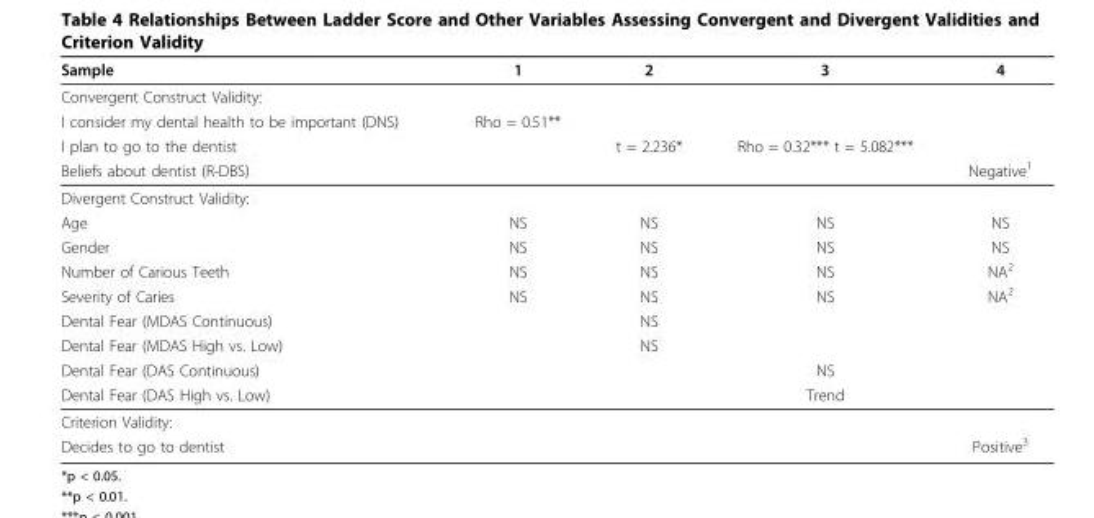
<table><thead><tr><td>Sample</td><td>1</td><td>2</td><td>3</td><td>4</td></tr></thead><tbody><tr><td colspan="5">Convergent Construct Validity:</td></tr><tr><td>I consider my dental health to be important (DNS)</td><td>Rho = 0.51**</td><td></td><td></td><td></td></tr><tr><td>I plan to go to the dentist</td><td></td><td>t = 2.236*</td><td>Rho = 0.32*** t = 5.082***</td><td></td></tr><tr><td>Beliefs about dentist (R-DBS)</td><td></td><td></td><td></td><td>Negative<sup>1</sup></td></tr><tr><td colspan="5">Divergent Construct Validity:</td></tr><tr><td>Age</td><td>NS</td><td>NS</td><td>NS</td><td>NS</td></tr><tr><td>Gender</td><td>NS</td><td>NS</td><td>NS</td><td>NS</td></tr><tr><td>Number of Carious Teeth</td><td>NS</td><td>NS</td><td>NS</td><td>NA<sup>2</sup></td></tr><tr><td>Severity of Caries</td><td>NS</td><td>NS</td><td>NS</td><td>NA<sup>2</sup></td></tr><tr><td>Dental Fear (MDAS Continuous)</td><td></td><td>NS</td><td></td><td></td></tr><tr><td>Dental Fear (MDAS High vs. Low)</td><td></td><td>NS</td><td></td><td></td></tr><tr><td>Dental Fear (DAS Continuous)</td><td></td><td></td><td>NS</td><td></td></tr><tr><td>Dental Fear (DAS High vs. Low)</td><td></td><td></td><td>Trend</td><td></td></tr><tr><td colspan="5">Criterion Validity:</td></tr><tr><td>Decides to go to dentist</td><td></td><td></td><td></td><td>Positive<sup>3</sup></td></tr></tbody></table>